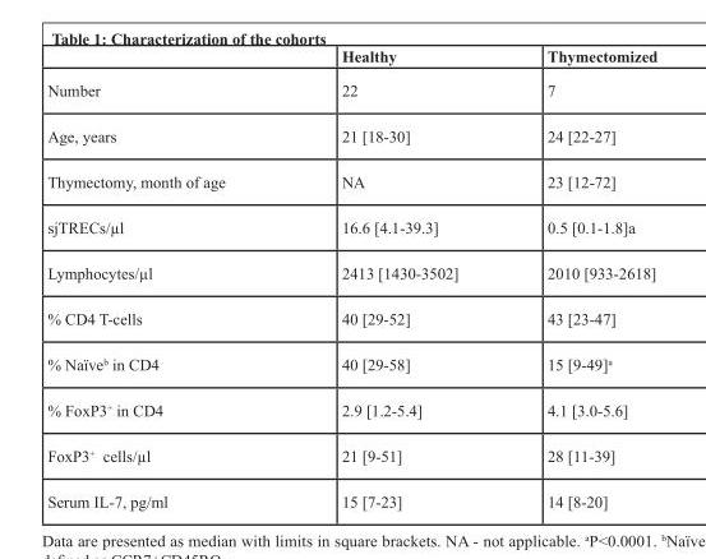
<table><thead><tr><td></td><td>Healthy</td><td>Thymectomized</td></tr></thead><tbody><tr><td>Number</td><td>22</td><td>7</td></tr><tr><td>Age, years</td><td>21 [18-30]</td><td>24 [22-27]</td></tr><tr><td>Thymectomy, month of age</td><td>NA</td><td>23 [12-72]</td></tr><tr><td>sjTRECs/µl</td><td>16.6 [4.1-39.3]</td><td>0.5 [0.1-1.8]a</td></tr><tr><td>Lymphocytes/µl</td><td>2413 [1430-3502]</td><td>2010 [933-2618]</td></tr><tr><td>% CD4 T-cells</td><td>40 [29-52]</td><td>43 [23-47]</td></tr><tr><td>% Naïve<sup>b</sup> in CD4</td><td>40 [29-58]</td><td>15 [9-49]<sup>a</sup></td></tr><tr><td>% FoxP3<sup>+</sup> in CD4</td><td>2.9 [1.2-5.4]</td><td>4.1 [3.0-5.6]</td></tr><tr><td>FoxP3<sup>+</sup> cells/µl</td><td>21 [9-51]</td><td>28 [11-39]</td></tr><tr><td>Serum IL-7, pg/ml</td><td>15 [7-23]</td><td>14 [8-20]</td></tr></tbody></table>